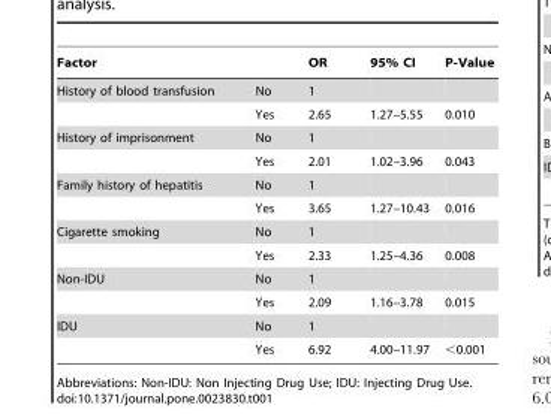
<table><thead><tr><td colspan="2">Factor</td><td rowspan="2">OR 1</td><td rowspan="2">95% CI</td><td rowspan="2">P-Value</td></tr><tr><td>History of blood transfusion</td><td>No</td></tr></thead><tbody><tr><td></td><td>Yes</td><td>2.65</td><td>1.27–5.55</td><td>0.010</td></tr><tr><td rowspan="2">History of imprisonment</td><td>No</td><td>1</td><td></td><td></td></tr><tr><td>Yes</td><td>2.01</td><td>1.02–3.96</td><td>0.043</td></tr><tr><td rowspan="2">Family history of hepatitis</td><td>No</td><td>1</td><td></td><td></td></tr><tr><td>Yes</td><td>3.65</td><td>1.27–10.43</td><td>0.016</td></tr><tr><td rowspan="2">Cigarette smoking</td><td>No</td><td>1</td><td></td><td></td></tr><tr><td>Yes</td><td>2.33</td><td>1.25–4.36</td><td>0.008</td></tr><tr><td rowspan="2">Non-IDU</td><td>No</td><td>1</td><td></td><td></td></tr><tr><td>Yes</td><td>2.09</td><td>1.16–3.78</td><td>0.015</td></tr><tr><td rowspan="2">IDU</td><td>No</td><td>1</td><td></td><td></td></tr><tr><td>Yes</td><td>6.92</td><td>4.00–11.97</td><td>&lt;0.001</td></tr></tbody></table>